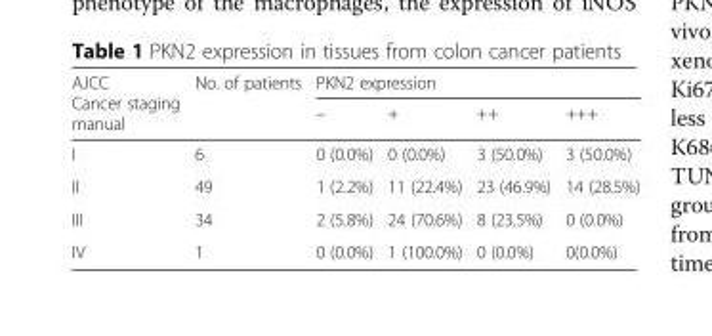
<table><thead><tr><td rowspan="2">AJCC Cancer staging manual</td><td rowspan="2">No. of patients</td><td colspan="4">PKN2 expression</td></tr><tr><td>–</td><td>+</td><td>++</td><td>+++</td></tr></thead><tbody><tr><td>I</td><td>6</td><td>0 (0.0%)</td><td>0 (0.0%)</td><td>3 (50.0%)</td><td>3 (50.0%)</td></tr><tr><td>II</td><td>49</td><td>1 (2.2%)</td><td>11 (22.4%)</td><td>23 (46.9%)</td><td>14 (28.5%)</td></tr><tr><td>III</td><td>34</td><td>2 (5.8%)</td><td>24 (70.6%)</td><td>8 (23.5%)</td><td>0 (0.0%)</td></tr><tr><td>IV</td><td>1</td><td>0 (0.0%)</td><td>1 (100.0%)</td><td>0 (0.0%)</td><td>0(0.0%)</td></tr></tbody></table>